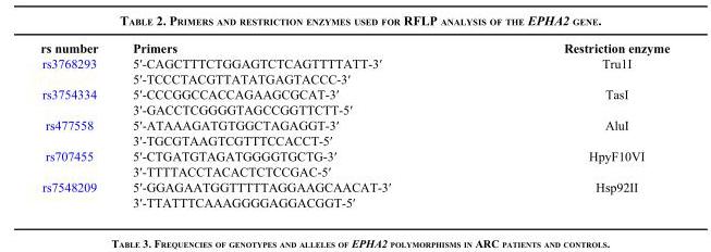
<table><thead><tr><td>rs number</td><td>Primers</td><td>Restriction enzyme</td></tr></thead><tbody><tr><td rowspan="2">rs3768293</td><td>5′-CAGCTTTCTGGAGTCTCAGTTTTATT-3′</td><td>Tru1I</td></tr><tr><td>5′-TCCCTACGTTATATGAGTACCC-3′</td><td></td></tr><tr><td rowspan="2">rs3754334</td><td>5′-CCCGGCCACCAGAAGCGCAT-3′</td><td>TasI</td></tr><tr><td>3′-GACCTCGGGGTAGCCGGTTCTT-5′</td><td></td></tr><tr><td rowspan="2">rs477558</td><td>5′-ATAAAGATGTGGCTAGAGGT-3′</td><td>AluI</td></tr><tr><td>3′-TGCGTAAGTCGTTTCCACCT-5′</td><td></td></tr><tr><td rowspan="2">rs707455</td><td>5′-CTGATGTAGATGGGGTGCTG-3′</td><td>HpyF10VI</td></tr><tr><td>3′-TTTTACCTACACTCTCCGAC-5′</td><td></td></tr><tr><td rowspan="2">rs7548209</td><td>5′-GGAGAATGGTTTTTAGGAAGCAACAT-3′</td><td>Hsp92II</td></tr><tr><td>3′-TTATTTCAAAGGGGAGGACGGT-5′</td><td></td></tr></tbody></table>